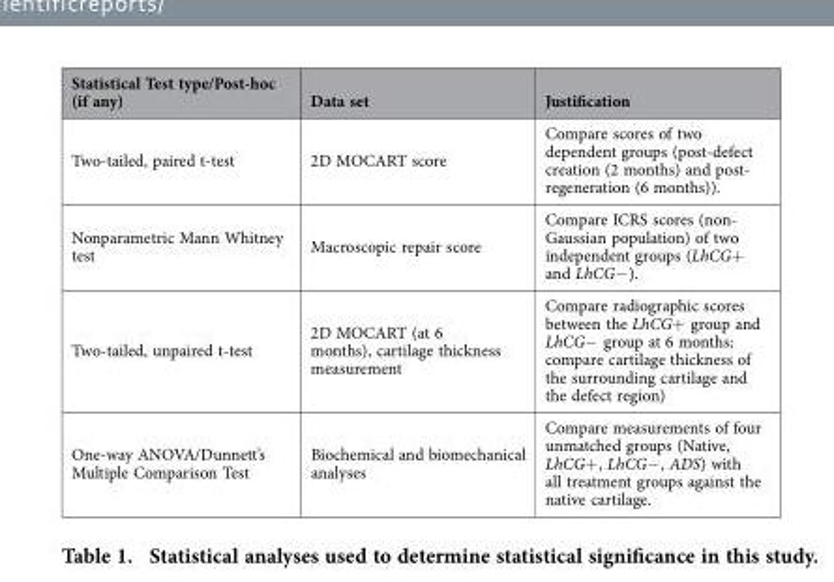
<table><thead><tr><td>Statistical Test type/Post-hoc (if any)</td><td>Data set</td><td>Justification</td></tr></thead><tbody><tr><td>Two-tailed, paired t-test</td><td>2D MOCART score</td><td>Compare scores of two dependent groups (post-defect creation (2 months) and post- regeneration (6 months)).</td></tr><tr><td>Nonparametric Mann Whitney test</td><td>Macroscopic repair score</td><td>Compare ICRS scores (non- Gaussian population) of two independent groups (LhCG+ and LhCG− ).</td></tr><tr><td>Two-tailed, unpaired t-test</td><td>2D MOCART (at 6 months), cartilage thickness measurement</td><td>Compare radiographic scores between the LhCG+ group and LhCG− group at 6 months; compare cartilage thickness of the surrounding cartilage and the defect region)</td></tr><tr><td>One-way ANOVA/Dunnett’s Multiple Comparison Test</td><td>Biochemical and biomechanical analyses</td><td>Compare measurements of four unmatched groups (Native, LhCG+ , LhCG− , ADS) with all treatment groups against the native cartilage.</td></tr></tbody></table>